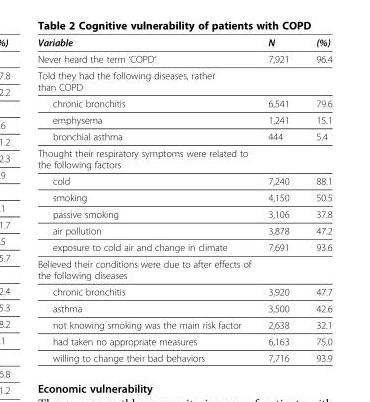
<table><thead><tr><td>Variable</td><td>N</td><td>(%)</td></tr></thead><tbody><tr><td>Never heard the term ‘COPD’</td><td>7,921</td><td>96.4</td></tr><tr><td colspan="3">Told they had the following diseases, rather than COPD</td></tr><tr><td>chronic bronchitis</td><td>6,541</td><td>79.6</td></tr><tr><td>emphysema</td><td>1,241</td><td>15.1</td></tr><tr><td>bronchial asthma</td><td>444</td><td>5.4</td></tr><tr><td colspan="3">Thought their respiratory symptoms were related to the following factors</td></tr><tr><td>cold</td><td>7,240</td><td>88.1</td></tr><tr><td>smoking</td><td>4,150</td><td>50.5</td></tr><tr><td>passive smoking</td><td>3,106</td><td>37.8</td></tr><tr><td>air pollution</td><td>3,878</td><td>47.2</td></tr><tr><td>exposure to cold air and change in climate</td><td>7,691</td><td>93.6</td></tr><tr><td colspan="3">Believed their conditions were due to after effects of the following diseases</td></tr><tr><td>chronic bronchitis</td><td>3,920</td><td>47.7</td></tr><tr><td>asthma</td><td>3,500</td><td>42.6</td></tr><tr><td>not knowing smoking was the main risk factor</td><td>2,638</td><td>32.1</td></tr><tr><td>had taken no appropriate measures</td><td>6,163</td><td>75.0</td></tr><tr><td>willing to change their bad behaviors</td><td>7,716</td><td>93.9</td></tr></tbody></table>